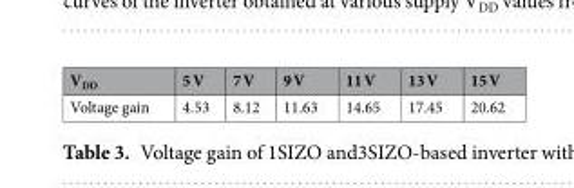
<table><thead><tr><td>V<sub>DD</sub></td><td>5 V</td><td>7 V</td><td>9 V</td><td>11 V</td><td>13 V</td><td>15 V</td></tr></thead><tbody><tr><td>Voltage gain</td><td>4.53</td><td>8.12</td><td>11.63</td><td>14.65</td><td>17.45</td><td>20.62</td></tr></tbody></table>